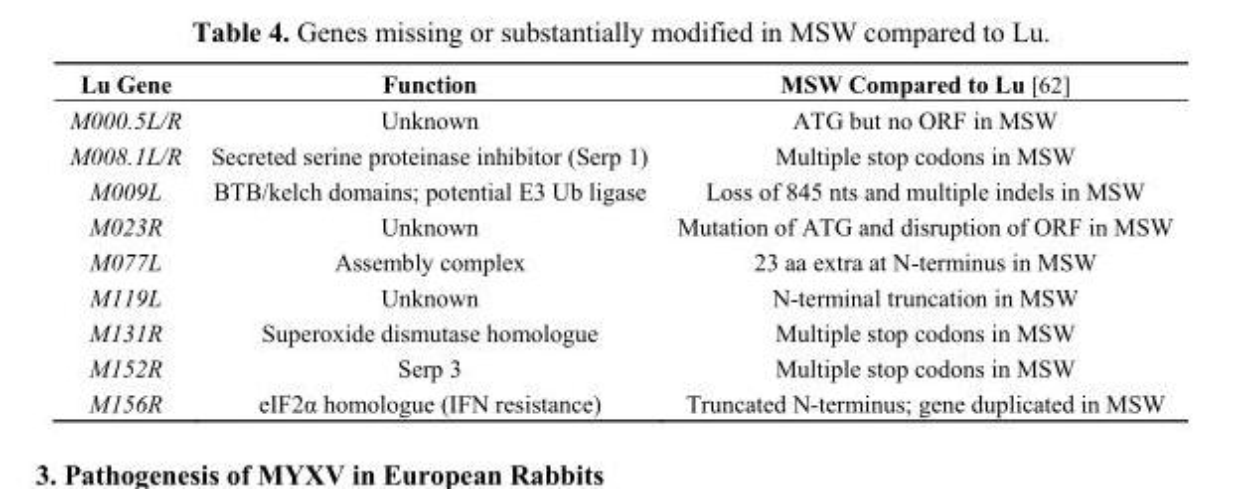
<table><thead><tr><td>Lu Gene</td><td>Function</td><td>MSW Compared to Lu [62]</td></tr></thead><tbody><tr><td>M000.5L/R</td><td>Unknown</td><td>ATG but no ORF in MSW</td></tr><tr><td>M008.1L/R</td><td>Secreted serine proteinase inhibitor (Serp 1)</td><td>Multiple stop codons in MSW</td></tr><tr><td>M009L</td><td>BTB/kelch domains; potential E3 Ub ligase</td><td>Loss of 845 nts and multiple indels in MSW</td></tr><tr><td>M023R</td><td>Unknown</td><td>Mutation of ATG and disruption of ORF in MSW</td></tr><tr><td>M077L</td><td>Assembly complex</td><td>23 aa extra at N-terminus in MSW</td></tr><tr><td>M119L</td><td>Unknown</td><td>N-terminal truncation in MSW</td></tr><tr><td>M131R</td><td>Superoxide dismutase homologue</td><td>Multiple stop codons in MSW</td></tr><tr><td>M152R</td><td>Serp 3</td><td>Multiple stop codons in MSW</td></tr><tr><td>M156R</td><td>eIF2α homologue (IFN resistance)</td><td>Truncated N-terminus; gene duplicated in MSW</td></tr></tbody></table>